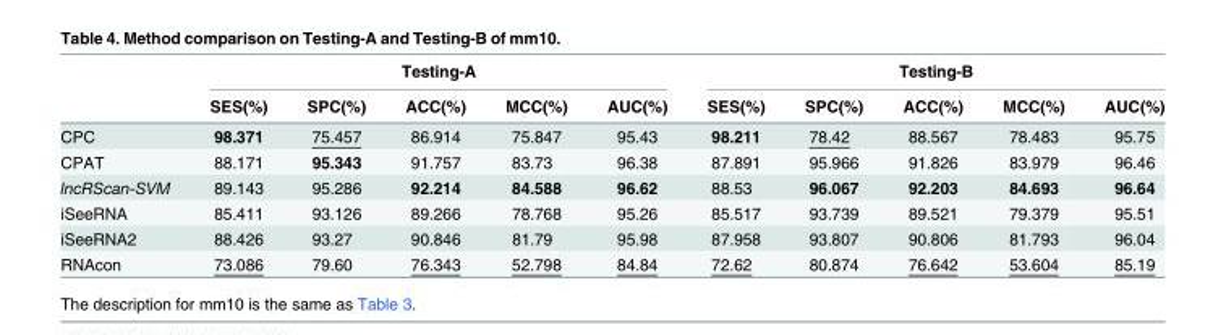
<table><thead><tr><td rowspan="2"></td><td colspan="5">Testing-A</td><td colspan="5">Testing-B</td></tr><tr><td>SES(%)</td><td>SPC(%)</td><td>ACC(%)</td><td>MCC(%)</td><td>AUC(%)</td><td>SES(%)</td><td>SPC(%)</td><td>ACC(%)</td><td>MCC(%)</td><td>AUC(%)</td></tr></thead><tbody><tr><td>CPC</td><td>98.371</td><td>75.457</td><td>86.914</td><td>75.847</td><td>95.43</td><td>98.211</td><td>78.42</td><td>88.567</td><td>78.483</td><td>95.75</td></tr><tr><td>CPAT</td><td>88.171</td><td>95.343</td><td>91.757</td><td>83.73</td><td>96.38</td><td>87.891</td><td>95.966</td><td>91.826</td><td>83.979</td><td>96.46</td></tr><tr><td>lncRScan-SVM</td><td>89.143</td><td>95.286</td><td>92.214</td><td>84.588</td><td>96.62</td><td>88.53</td><td>96.067</td><td>92.203</td><td>84.693</td><td>96.64</td></tr><tr><td>iSeeRNA</td><td>85.411</td><td>93.126</td><td>89.266</td><td>78.768</td><td>95.26</td><td>85.517</td><td>93.739</td><td>89.521</td><td>79.379</td><td>95.51</td></tr><tr><td>iSeeRNA2</td><td>88.426</td><td>93.27</td><td>90.846</td><td>81.79</td><td>95.98</td><td>87.958</td><td>93.807</td><td>90.806</td><td>81.793</td><td>96.04</td></tr><tr><td>RNAcon</td><td>73.086</td><td>79.60</td><td>76.343</td><td>52.798</td><td>84.84</td><td>72.62</td><td>80.874</td><td>76.642</td><td>53.604</td><td>85.19</td></tr></tbody></table>